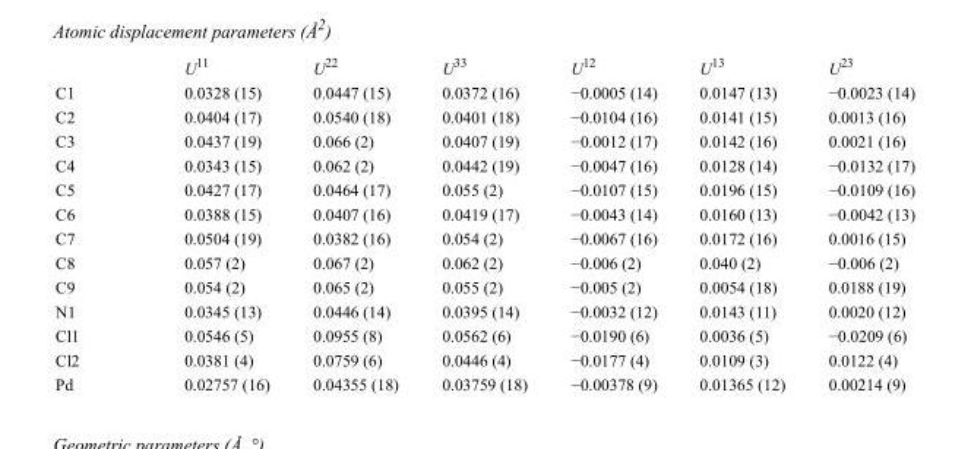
<table><thead><tr><td></td><td>U<sup>11</sup></td><td>U<sup>22</sup></td><td>U<sup>33</sup></td><td>U<sup>12</sup></td><td>U<sup>13</sup></td><td>U<sup>23</sup></td></tr></thead><tbody><tr><td>C1</td><td>0.0328 (15)</td><td>0.0447 (15)</td><td>0.0372 (16)</td><td>−0.0005 (14)</td><td>0.0147 (13)</td><td>−0.0023 (14)</td></tr><tr><td>C2</td><td>0.0404 (17)</td><td>0.0540 (18)</td><td>0.0401 (18)</td><td>−0.0104 (16)</td><td>0.0141 (15)</td><td>0.0013 (16)</td></tr><tr><td>C3</td><td>0.0437 (19)</td><td>0.066 (2)</td><td>0.0407 (19)</td><td>−0.0012 (17)</td><td>0.0142 (16)</td><td>0.0021 (16)</td></tr><tr><td>C4</td><td>0.0343 (15)</td><td>0.062 (2)</td><td>0.0442 (19)</td><td>−0.0047 (16)</td><td>0.0128 (14)</td><td>−0.0132 (17)</td></tr><tr><td>C5</td><td>0.0427 (17)</td><td>0.0464 (17)</td><td>0.055 (2)</td><td>−0.0107 (15)</td><td>0.0196 (15)</td><td>−0.0109 (16)</td></tr><tr><td>C6</td><td>0.0388 (15)</td><td>0.0407 (16)</td><td>0.0419 (17)</td><td>−0.0043 (14)</td><td>0.0160 (13)</td><td>−0.0042 (13)</td></tr><tr><td>C7</td><td>0.0504 (19)</td><td>0.0382 (16)</td><td>0.054 (2)</td><td>−0.0067 (16)</td><td>0.0172 (16)</td><td>0.0016 (15)</td></tr><tr><td>C8</td><td>0.057 (2)</td><td>0.067 (2)</td><td>0.062 (2)</td><td>−0.006 (2)</td><td>0.040 (2)</td><td>−0.006 (2)</td></tr><tr><td>C9</td><td>0.054 (2)</td><td>0.065 (2)</td><td>0.055 (2)</td><td>−0.005 (2)</td><td>0.0054 (18)</td><td>0.0188 (19)</td></tr><tr><td>N1</td><td>0.0345 (13)</td><td>0.0446 (14)</td><td>0.0395 (14)</td><td>−0.0032 (12)</td><td>0.0143 (11)</td><td>0.0020 (12)</td></tr><tr><td>Cl1</td><td>0.0546 (5)</td><td>0.0955 (8)</td><td>0.0562 (6)</td><td>−0.0190 (6)</td><td>0.0036 (5)</td><td>−0.0209 (6)</td></tr><tr><td>Cl2</td><td>0.0381 (4)</td><td>0.0759 (6)</td><td>0.0446 (4)</td><td>−0.0177 (4)</td><td>0.0109 (3)</td><td>0.0122 (4)</td></tr><tr><td>Pd</td><td>0.02757 (16)</td><td>0.04355 (18)</td><td>0.03759 (18)</td><td>−0.00378 (9)</td><td>0.01365 (12)</td><td>0.00214 (9)</td></tr></tbody></table>